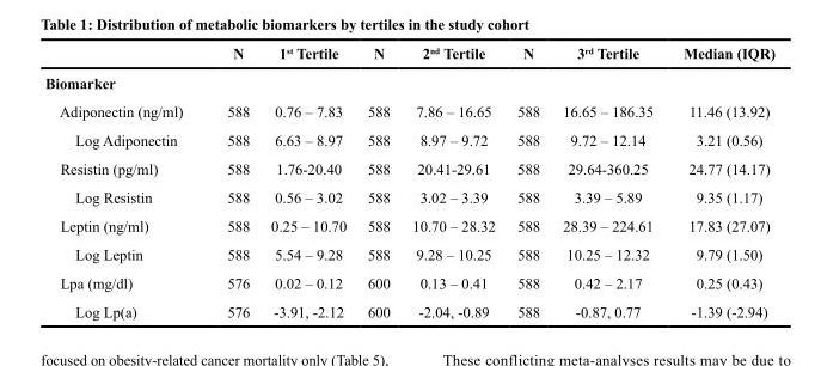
<table><thead><tr><td></td><td>N</td><td>1<sup>st</sup> Tertile</td><td>N</td><td>2<sup>nd</sup> Tertile</td><td>N</td><td>3<sup>rd</sup> Tertile</td><td>Median (IQR)</td></tr></thead><tbody><tr><td colspan="8">Biomarker</td></tr><tr><td>Adiponectin (ng/ml)</td><td>588</td><td>0.76 – 7.83</td><td>588</td><td>7.86 – 16.65</td><td>588</td><td>16.65 – 186.35</td><td>11.46 (13.92)</td></tr><tr><td>Log Adiponectin</td><td>588</td><td>6.63 – 8.97</td><td>588</td><td>8.97 – 9.72</td><td>588</td><td>9.72 – 12.14</td><td>3.21 (0.56)</td></tr><tr><td>Resistin (pg/ml)</td><td>588</td><td>1.76-20.40</td><td>588</td><td>20.41-29.61</td><td>588</td><td>29.64-360.25</td><td>24.77 (14.17)</td></tr><tr><td>Log Resistin</td><td>588</td><td>0.56 – 3.02</td><td>588</td><td>3.02 – 3.39</td><td>588</td><td>3.39 – 5.89</td><td>9.35 (1.17)</td></tr><tr><td>Leptin (ng/ml)</td><td>588</td><td>0.25 – 10.70</td><td>588</td><td>10.70 – 28.32</td><td>588</td><td>28.39 – 224.61</td><td>17.83 (27.07)</td></tr><tr><td>Log Leptin</td><td>588</td><td>5.54 – 9.28</td><td>588</td><td>9.28 – 10.25</td><td>588</td><td>10.25 – 12.32</td><td>9.79 (1.50)</td></tr><tr><td>Lpa (mg/dl)</td><td>576</td><td>0.02 – 0.12</td><td>600</td><td>0.13 – 0.41</td><td>588</td><td>0.42 – 2.17</td><td>0.25 (0.43)</td></tr><tr><td>Log Lp(a)</td><td>576</td><td>-3.91, -2.12</td><td>600</td><td>-2.04, -0.89</td><td>588</td><td>-0.87, 0.77</td><td>-1.39 (-2.94)</td></tr></tbody></table>